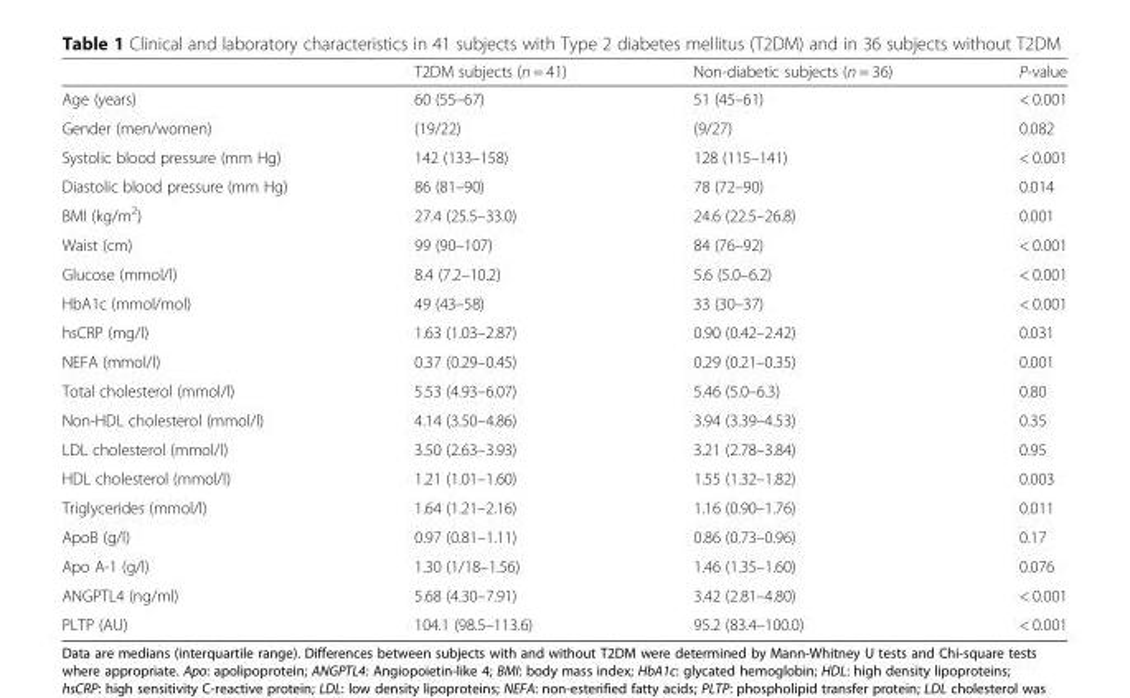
<table><thead><tr><td></td><td>T2DM subjects (n = 41)</td><td>Non-diabetic subjects (n = 36)</td><td>P-value</td></tr></thead><tbody><tr><td>Age (years)</td><td>60 (55–67)</td><td>51 (45–61)</td><td>&lt; 0.001</td></tr><tr><td>Gender (men/women)</td><td>(19/22)</td><td>(9/27)</td><td>0.082</td></tr><tr><td>Systolic blood pressure (mm Hg)</td><td>142 (133–158)</td><td>128 (115–141)</td><td>&lt; 0.001</td></tr><tr><td>Diastolic blood pressure (mm Hg)</td><td>86 (81–90)</td><td>78 (72–90)</td><td>0.014</td></tr><tr><td>BMI (kg/m<sup>2</sup>)</td><td>27.4 (25.5–33.0)</td><td>24.6 (22.5–26.8)</td><td>0.001</td></tr><tr><td>Waist (cm)</td><td>99 (90–107)</td><td>84 (76–92)</td><td>&lt; 0.001</td></tr><tr><td>Glucose (mmol/l)</td><td>8.4 (7.2–10.2)</td><td>5.6 (5.0–6.2)</td><td>&lt; 0.001</td></tr><tr><td>HbA1c (mmol/mol)</td><td>49 (43–58)</td><td>33 (30–37)</td><td>&lt; 0.001</td></tr><tr><td>hsCRP (mg/l)</td><td>1.63 (1.03–2.87)</td><td>0.90 (0.42–2.42)</td><td>0.031</td></tr><tr><td>NEFA (mmol/l)</td><td>0.37 (0.29–0.45)</td><td>0.29 (0.21–0.35)</td><td>0.001</td></tr><tr><td>Total cholesterol (mmol/l)</td><td>5.53 (4.93–6.07)</td><td>5.46 (5.0–6.3)</td><td>0.80</td></tr><tr><td>Non-HDL cholesterol (mmol/l)</td><td>4.14 (3.50–4.86)</td><td>3.94 (3.39–4.53)</td><td>0.35</td></tr><tr><td>LDL cholesterol (mmol/l)</td><td>3.50 (2.63–3.93)</td><td>3.21 (2.78–3.84)</td><td>0.95</td></tr><tr><td>HDL cholesterol (mmol/l)</td><td>1.21 (1.01–1.60)</td><td>1.55 (1.32–1.82)</td><td>0.003</td></tr><tr><td>Triglycerides (mmol/l)</td><td>1.64 (1.21–2.16)</td><td>1.16 (0.90–1.76)</td><td>0.011</td></tr><tr><td>ApoB (g/l)</td><td>0.97 (0.81–1.11)</td><td>0.86 (0.73–0.96)</td><td>0.17</td></tr><tr><td>Apo A-1 (g/l)</td><td>1.30 (1/18–1.56)</td><td>1.46 (1.35–1.60)</td><td>0.076</td></tr><tr><td>ANGPTL4 (ng/ml)</td><td>5.68 (4.30–7.91)</td><td>3.42 (2.81–4.80)</td><td>&lt; 0.001</td></tr><tr><td>PLTP (AU)</td><td>104.1 (98.5–113.6)</td><td>95.2 (83.4–100.0)</td><td>&lt; 0.001</td></tr></tbody></table>